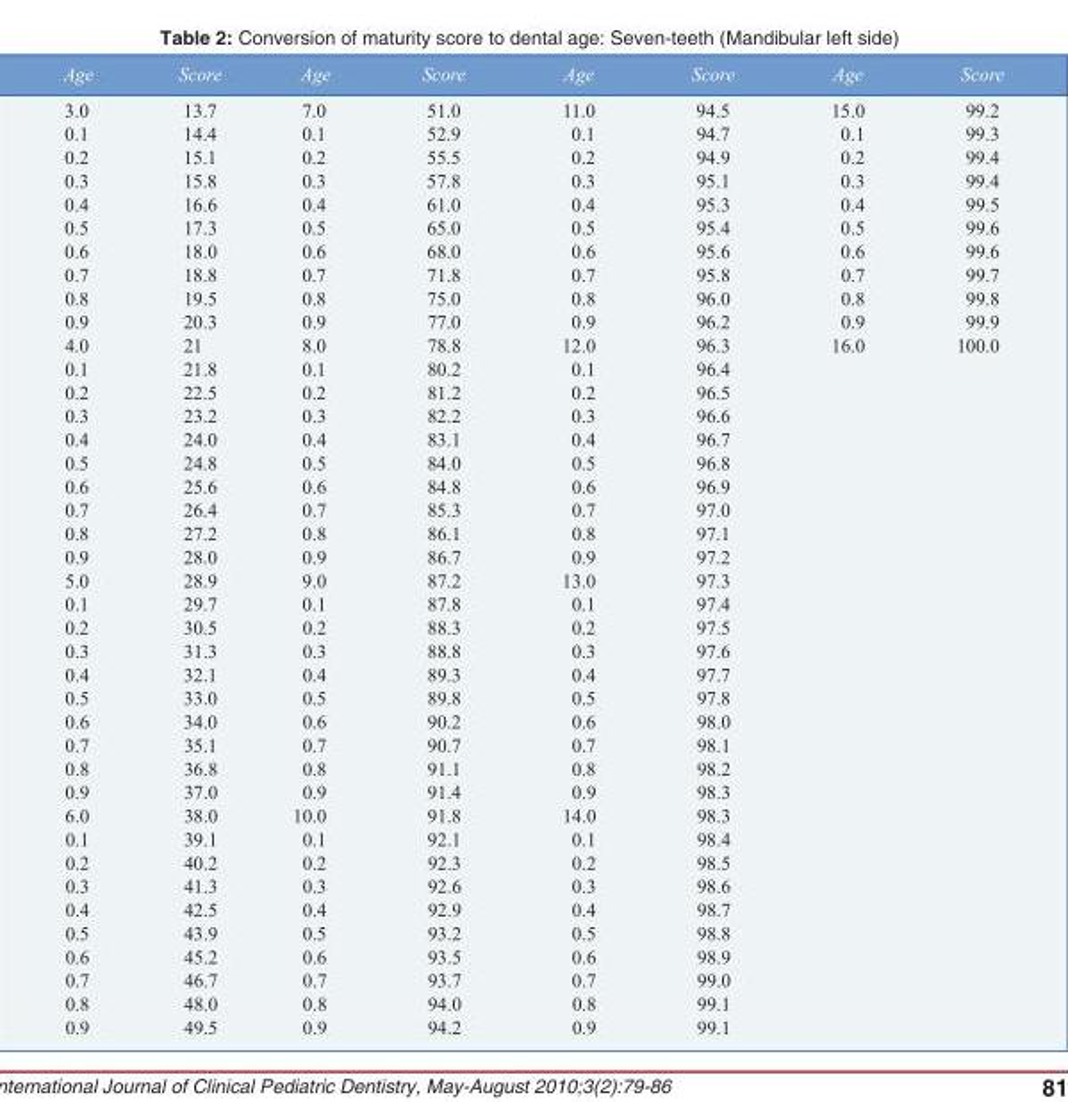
<table><tbody><tr><td>Age</td><td>Score</td><td>Age</td><td>Score</td><td>Age</td><td>Score</td><td>Age</td><td>Score</td></tr><tr><td>3.0</td><td>13.7</td><td>7.0</td><td>51.0</td><td>11.0</td><td>94.5</td><td>15.0</td><td>99.2</td></tr><tr><td>0.1</td><td>14.4</td><td>0.1</td><td>52.9</td><td>0.1</td><td>94.7</td><td>0.1</td><td>99.3</td></tr><tr><td>0.2</td><td>15.1</td><td>0.2</td><td>55.5</td><td>0.2</td><td>94.9</td><td>0.2</td><td>99.4</td></tr><tr><td>0.3</td><td>15.8</td><td>0.3</td><td>57.8</td><td>0.3</td><td>95.1</td><td>0.3</td><td>99.4</td></tr><tr><td>0.4</td><td>16.6</td><td>0.4</td><td>61.0</td><td>0.4</td><td>95.3</td><td>0.4</td><td>99.5</td></tr><tr><td>0.5</td><td>17.3</td><td>0.5</td><td>65.0</td><td>0.5</td><td>95.4</td><td>0.5</td><td>99.6</td></tr><tr><td>0.6</td><td>18.0</td><td>0.6</td><td>68.0</td><td>0.6</td><td>95.6</td><td>0.6</td><td>99.6</td></tr><tr><td>0.7</td><td>18.8</td><td>0.7</td><td>71.8</td><td>0.7</td><td>95.8</td><td>0.7</td><td>99.7</td></tr><tr><td>0.8</td><td>19.5</td><td>0.8</td><td>75.0</td><td>0.8</td><td>96.0</td><td>0.8</td><td>99.8</td></tr><tr><td>0.9</td><td>20.3</td><td>0.9</td><td>77.0</td><td>0.9</td><td>96.2</td><td>0.9</td><td>99.9</td></tr><tr><td>4.0</td><td>21</td><td>8.0</td><td>78.8</td><td>12.0</td><td>96.3</td><td>16.0</td><td>100.0</td></tr><tr><td>0.1</td><td>21.8</td><td>0.1</td><td>80.2</td><td>0.1</td><td>96.4</td><td></td><td></td></tr><tr><td>0.2</td><td>22.5</td><td>0.2</td><td>81.2</td><td>0.2</td><td>96.5</td><td></td><td></td></tr><tr><td>0.3</td><td>23.2</td><td>0.3</td><td>82.2</td><td>0.3</td><td>96.6</td><td></td><td></td></tr><tr><td>0.4</td><td>24.0</td><td>0.4</td><td>83.1</td><td>0.4</td><td>96.7</td><td></td><td></td></tr><tr><td>0.5</td><td>24.8</td><td>0.5</td><td>84.0</td><td>0.5</td><td>96.8</td><td></td><td></td></tr><tr><td>0.6</td><td>25.6</td><td>0.6</td><td>84.8</td><td>0.6</td><td>96.9</td><td></td><td></td></tr><tr><td>0.7</td><td>26.4</td><td>0.7</td><td>85.3</td><td>0.7</td><td>97.0</td><td></td><td></td></tr><tr><td>0.8</td><td>27.2</td><td>0.8</td><td>86.1</td><td>0.8</td><td>97.1</td><td></td><td></td></tr><tr><td>0.9</td><td>28.0</td><td>0.9</td><td>86.7</td><td>0.9</td><td>97.2</td><td></td><td></td></tr><tr><td>5.0</td><td>28.9</td><td>9.0</td><td>87.2</td><td>13.0</td><td>97.3</td><td></td><td></td></tr><tr><td>0.1</td><td>29.7</td><td>0.1</td><td>87.8</td><td>0.1</td><td>97.4</td><td></td><td></td></tr><tr><td>0.2</td><td>30.5</td><td>0.2</td><td>88.3</td><td>0.2</td><td>97.5</td><td></td><td></td></tr><tr><td>0.3</td><td>31.3</td><td>0.3</td><td>88.8</td><td>0.3</td><td>97.6</td><td></td><td></td></tr><tr><td>0.4</td><td>32.1</td><td>0.4</td><td>89.3</td><td>0.4</td><td>97.7</td><td></td><td></td></tr><tr><td>0.5</td><td>33.0</td><td>0.5</td><td>89.8</td><td>0.5</td><td>97.8</td><td></td><td></td></tr><tr><td>0.6</td><td>34.0</td><td>0.6</td><td>90.2</td><td>0.6</td><td>98.0</td><td></td><td></td></tr><tr><td>0.7</td><td>35.1</td><td>0.7</td><td>90.7</td><td>0.7</td><td>98.1</td><td></td><td></td></tr><tr><td>0.8</td><td>36.8</td><td>0.8</td><td>91.1</td><td>0.8</td><td>98.2</td><td></td><td></td></tr><tr><td>0.9</td><td>37.0</td><td>0.9</td><td>91.4</td><td>0.9</td><td>98.3</td><td></td><td></td></tr><tr><td>6.0</td><td>38.0</td><td>10.0</td><td>91.8</td><td>14.0</td><td>98.3</td><td></td><td></td></tr><tr><td>0.1</td><td>39.1</td><td>0.1</td><td>92.1</td><td>0.1</td><td>98.4</td><td></td><td></td></tr><tr><td>0.2</td><td>40.2</td><td>0.2</td><td>92.3</td><td>0.2</td><td>98.5</td><td></td><td></td></tr><tr><td>0.3</td><td>41.3</td><td>0.3</td><td>92.6</td><td>0.3</td><td>98.6</td><td></td><td></td></tr><tr><td>0.4</td><td>42.5</td><td>0.4</td><td>92.9</td><td>0.4</td><td>98.7</td><td></td><td></td></tr><tr><td>0.5</td><td>43.9</td><td>0.5</td><td>93.2</td><td>0.5</td><td>98.8</td><td></td><td></td></tr><tr><td>0.6</td><td>45.2</td><td>0.6</td><td>93.5</td><td>0.6</td><td>98.9</td><td></td><td></td></tr><tr><td>0.7</td><td>46.7</td><td>0.7</td><td>93.7</td><td>0.7</td><td>99.0</td><td></td><td></td></tr><tr><td>0.8</td><td>48.0</td><td>0.8</td><td>94.0</td><td>0.8</td><td>99.1</td><td></td><td></td></tr><tr><td>0.9</td><td>49.5</td><td>0.9</td><td>94.2</td><td>0.9</td><td>99.1</td><td></td><td></td></tr></tbody></table>